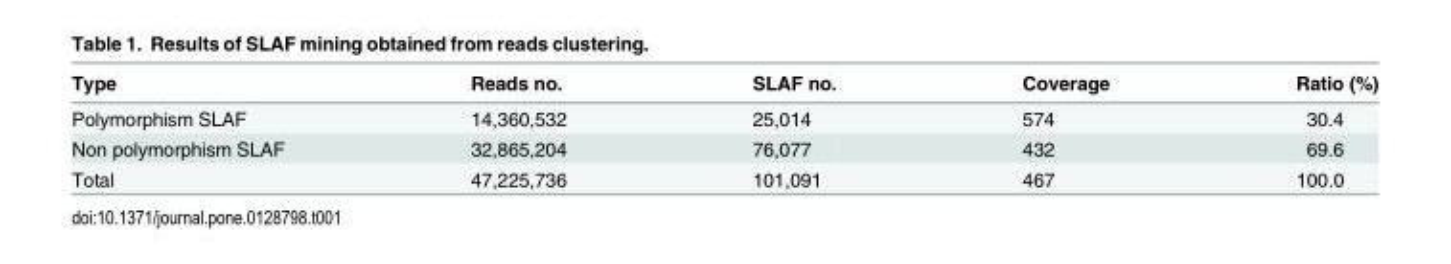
<table><thead><tr><td>Type</td><td>Reads no.</td><td>SLAF no.</td><td>Coverage</td><td>Ratio (%)</td></tr></thead><tbody><tr><td>Polymorphism SLAF</td><td>14,360,532</td><td>25,014</td><td>574</td><td>30.4</td></tr><tr><td>Non polymorphism SLAF</td><td>32,865,204</td><td>76,077</td><td>432</td><td>69.6</td></tr><tr><td>Total</td><td>47,225,736</td><td>101,091</td><td>467</td><td>100.0</td></tr></tbody></table>